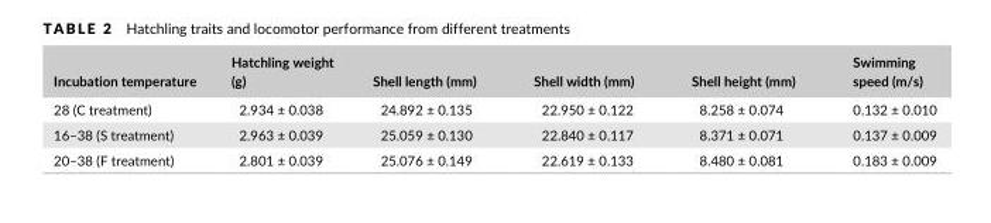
<table><thead><tr><td>Incubation temperature</td><td>Hatchling weight (g)</td><td>Shell length (mm)</td><td>Shell width (mm)</td><td>Shell height (mm)</td><td>Swimming speed (m/s)</td></tr></thead><tbody><tr><td>28 (C treatment)</td><td>2.934 ± 0.038</td><td>24.892 ± 0.135</td><td>22.950 ± 0.122</td><td>8.258 ± 0.074</td><td>0.132 ± 0.010</td></tr><tr><td>16–38 (S treatment)</td><td>2.963 ± 0.039</td><td>25.059 ± 0.130</td><td>22.840 ± 0.117</td><td>8.371 ± 0.071</td><td>0.137 ± 0.009</td></tr><tr><td>20–38 (F treatment)</td><td>2.801 ± 0.039</td><td>25.076 ± 0.149</td><td>22.619 ± 0.133</td><td>8.480 ± 0.081</td><td>0.183 ± 0.009</td></tr></tbody></table>